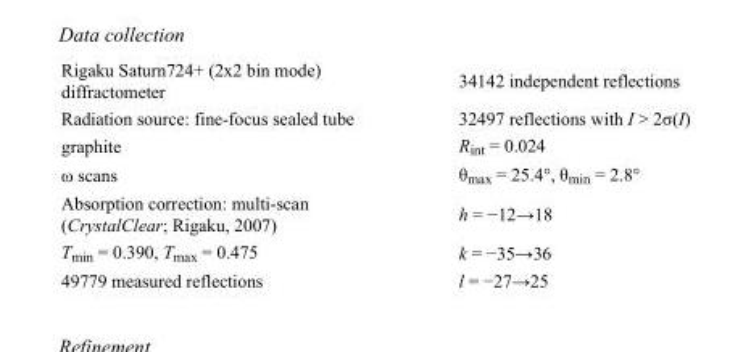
<table><tbody><tr><td>Rigaku Saturn724+ (2x2 bin mode) diffractometer</td><td>34142 independent reflections</td></tr><tr><td>Radiation source: fine-focus sealed tube</td><td>32497 reflections with I &gt; 2σ(I)</td></tr><tr><td>graphite</td><td>R<sub>int</sub> = 0.024</td></tr><tr><td>ω scans</td><td>θ<sub>max</sub> = 25.4°, θ<sub>min</sub> = 2.8°</td></tr><tr><td>Absorption correction: multi-scan (CrystalClear; Rigaku, 2007)</td><td>h = −12→18</td></tr><tr><td>T<sub>min</sub> = 0.390, T<sub>max</sub> = 0.475</td><td>k = −35→36</td></tr><tr><td>49779 measured reflections</td><td>l = −27→25</td></tr></tbody></table>